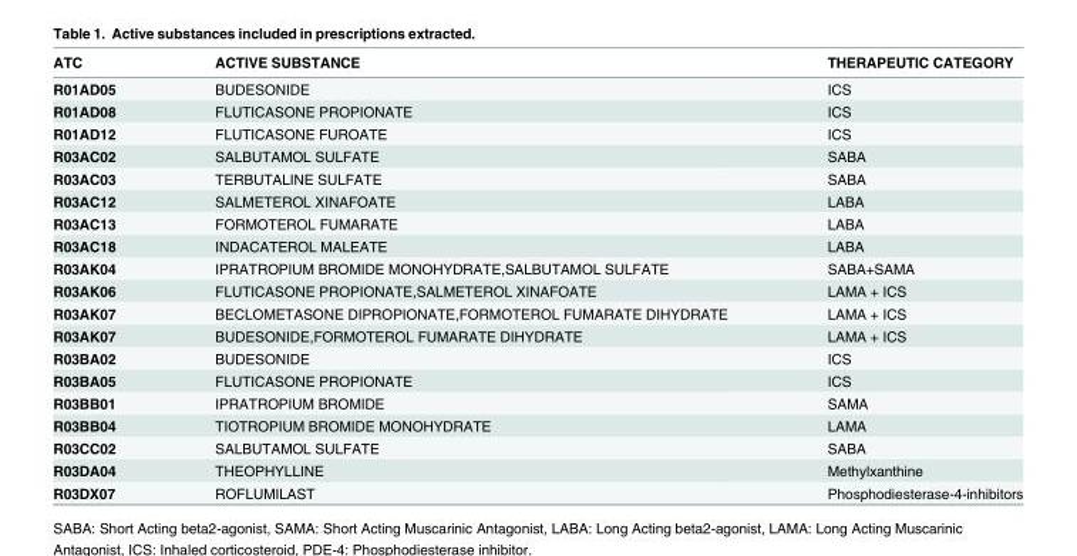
<table><thead><tr><td>ATC</td><td>ACTIVE SUBSTANCE</td><td>THERAPEUTIC CATEGORY</td></tr></thead><tbody><tr><td>R01AD05</td><td>BUDESONIDE</td><td>ICS</td></tr><tr><td>R01AD08</td><td>FLUTICASONE PROPIONATE</td><td>ICS</td></tr><tr><td>R01AD12</td><td>FLUTICASONE FUROATE</td><td>ICS</td></tr><tr><td>R03AC02</td><td>SALBUTAMOL SULFATE</td><td>SABA</td></tr><tr><td>R03AC03</td><td>TERBUTALINE SULFATE</td><td>SABA</td></tr><tr><td>R03AC12</td><td>SALMETEROL XINAFOATE</td><td>LABA</td></tr><tr><td>R03AC13</td><td>FORMOTEROL FUMARATE</td><td>LABA</td></tr><tr><td>R03AC18</td><td>INDACATEROL MALEATE</td><td>LABA</td></tr><tr><td>R03AK04</td><td>IPRATROPIUM BROMIDE MONOHYDRATE,SALBUTAMOL SULFATE</td><td>SABA+SAMA</td></tr><tr><td>R03AK06</td><td>FLUTICASONE PROPIONATE,SALMETEROL XINAFOATE</td><td>LAMA + ICS</td></tr><tr><td>R03AK07</td><td>BECLOMETASONE DIPROPIONATE,FORMOTEROL FUMARATE DIHYDRATE</td><td>LAMA + ICS</td></tr><tr><td>R03AK07</td><td>BUDESONIDE,FORMOTEROL FUMARATE DIHYDRATE</td><td>LAMA + ICS</td></tr><tr><td>R03BA02</td><td>BUDESONIDE</td><td>ICS</td></tr><tr><td>R03BA05</td><td>FLUTICASONE PROPIONATE</td><td>ICS</td></tr><tr><td>R03BB01</td><td>IPRATROPIUM BROMIDE</td><td>SAMA</td></tr><tr><td>R03BB04</td><td>TIOTROPIUM BROMIDE MONOHYDRATE</td><td>LAMA</td></tr><tr><td>R03CC02</td><td>SALBUTAMOL SULFATE</td><td>SABA</td></tr><tr><td>R03DA04</td><td>THEOPHYLLINE</td><td>Methylxanthine</td></tr><tr><td>R03DX07</td><td>ROFLUMILAST</td><td>Phosphodiesterase-4-inhibitors</td></tr></tbody></table>